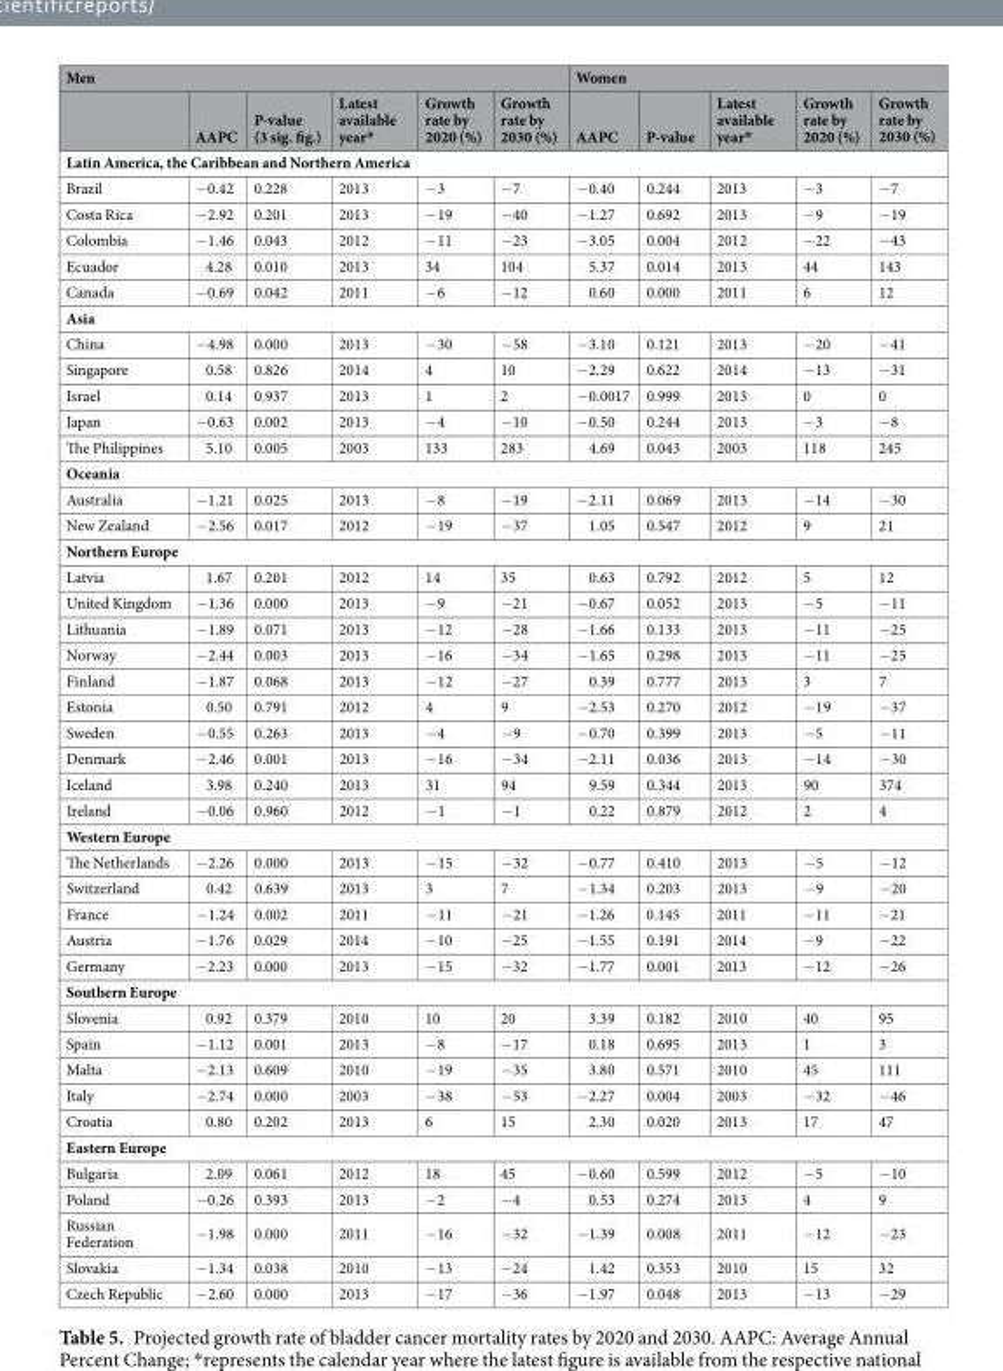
<table><thead><tr><td colspan="6">Men</td><td colspan="5">Women</td></tr><tr><td></td><td>AAPC</td><td>P-value (3 sig. fig.)</td><td>Latest available year*</td><td>Growth rate by 2020 (%)</td><td>Growth rate by 2030 (%)</td><td>AAPC</td><td>P-value</td><td>Latest available year*</td><td>Growth rate by 2020 (%)</td><td>Growth rate by 2030 (%)</td></tr></thead><tbody><tr><td colspan="11">Latin America, the Caribbean and Northern America</td></tr><tr><td>Brazil</td><td>−0.42</td><td>0.228</td><td>2013</td><td>−3</td><td>−7</td><td>−0.40</td><td>0.244</td><td>2013</td><td>−3</td><td>−7</td></tr><tr><td>Costa Rica</td><td>−2.92</td><td>0.201</td><td>2013</td><td>−19</td><td>−40</td><td>−1.27</td><td>0.692</td><td>2013</td><td>−9</td><td>−19</td></tr><tr><td>Colombia</td><td>−1.46</td><td>0.043</td><td>2012</td><td>−11</td><td>−23</td><td>−3.05</td><td>0.004</td><td>2012</td><td>−22</td><td>−43</td></tr><tr><td>Ecuador</td><td>4.28</td><td>0.010</td><td>2013</td><td>34</td><td>104</td><td>5.37</td><td>0.014</td><td>2013</td><td>44</td><td>143</td></tr><tr><td>Canada</td><td>−0.69</td><td>0.042</td><td>2011</td><td>−6</td><td>−12</td><td>0.60</td><td>0.000</td><td>2011</td><td>6</td><td>12</td></tr><tr><td colspan="11">Asia</td></tr><tr><td>China</td><td>−4.98</td><td>0.000</td><td>2013</td><td>−30</td><td>−58</td><td>−3.10</td><td>0.121</td><td>2013</td><td>−20</td><td>−41</td></tr><tr><td>Singapore</td><td>0.58</td><td>0.826</td><td>2014</td><td>4</td><td>10</td><td>−2.29</td><td>0.622</td><td>2014</td><td>−13</td><td>−31</td></tr><tr><td>Israel</td><td>0.14</td><td>0.937</td><td>2013</td><td>1</td><td>2</td><td>−0.0017</td><td>0.999</td><td>2013</td><td>0</td><td>0</td></tr><tr><td>Japan</td><td>−0.63</td><td>0.002</td><td>2013</td><td>−4</td><td>−10</td><td>−0.50</td><td>0.244</td><td>2013</td><td>−3</td><td>−8</td></tr><tr><td>The Philippines</td><td>5.10</td><td>0.005</td><td>2003</td><td>133</td><td>283</td><td>4.69</td><td>0.043</td><td>2003</td><td>118</td><td>245</td></tr><tr><td colspan="11">Oceania</td></tr><tr><td>Australia</td><td>−1.21</td><td>0.025</td><td>2013</td><td>−8</td><td>−19</td><td>−2.11</td><td>0.069</td><td>2013</td><td>−14</td><td>−30</td></tr><tr><td>New Zealand</td><td>−2.56</td><td>0.017</td><td>2012</td><td>−19</td><td>−37</td><td>1.05</td><td>0.547</td><td>2012</td><td>9</td><td>21</td></tr><tr><td colspan="11">Northern Europe</td></tr><tr><td>Latvia</td><td>1.67</td><td>0.201</td><td>2012</td><td>14</td><td>35</td><td>0.63</td><td>0.792</td><td>2012</td><td>5</td><td>12</td></tr><tr><td>United Kingdom</td><td>−1.36</td><td>0.000</td><td>2013</td><td>−9</td><td>−21</td><td>−0.67</td><td>0.052</td><td>2013</td><td>−5</td><td>−11</td></tr><tr><td>Lithuania</td><td>−1.89</td><td>0.071</td><td>2013</td><td>−12</td><td>−28</td><td>−1.66</td><td>0.133</td><td>2013</td><td>−11</td><td>−25</td></tr><tr><td>Norway</td><td>−2.44</td><td>0.003</td><td>2013</td><td>−16</td><td>−34</td><td>−1.65</td><td>0.298</td><td>2013</td><td>−11</td><td>−25</td></tr><tr><td>Finland</td><td>−1.87</td><td>0.068</td><td>2013</td><td>−12</td><td>−27</td><td>0.39</td><td>0.777</td><td>2013</td><td>3</td><td>7</td></tr><tr><td>Estonia</td><td>0.50</td><td>0.791</td><td>2012</td><td>4</td><td>9</td><td>−2.53</td><td>0.270</td><td>2012</td><td>−19</td><td>−37</td></tr><tr><td>Sweden</td><td>−0.55</td><td>0.263</td><td>2013</td><td>−4</td><td>−9</td><td>−0.70</td><td>0.399</td><td>2013</td><td>−5</td><td>−11</td></tr><tr><td>Denmark</td><td>−2.46</td><td>0.001</td><td>2013</td><td>−16</td><td>−34</td><td>−2.11</td><td>0.036</td><td>2013</td><td>−14</td><td>−30</td></tr><tr><td>Iceland</td><td>3.98</td><td>0.240</td><td>2013</td><td>31</td><td>94</td><td>9.59</td><td>0.344</td><td>2013</td><td>90</td><td>374</td></tr><tr><td>Ireland</td><td>−0.06</td><td>0.960</td><td>2012</td><td>−1</td><td>−1</td><td>0.22</td><td>0.879</td><td>2012</td><td>2</td><td>4</td></tr><tr><td colspan="11">Western Europe</td></tr><tr><td>The Netherlands</td><td>−2.26</td><td>0.000</td><td>2013</td><td>−15</td><td>−32</td><td>−0.77</td><td>0.410</td><td>2013</td><td>−5</td><td>−12</td></tr><tr><td>Switzerland</td><td>0.42</td><td>0.639</td><td>2013</td><td>3</td><td>7</td><td>−1.34</td><td>0.203</td><td>2013</td><td>−9</td><td>−20</td></tr><tr><td>France</td><td>−1.24</td><td>0.002</td><td>2011</td><td>−11</td><td>−21</td><td>−1.26</td><td>0.145</td><td>2011</td><td>−11</td><td>−21</td></tr><tr><td>Austria</td><td>−1.76</td><td>0.029</td><td>2014</td><td>−10</td><td>−25</td><td>−1.55</td><td>0.191</td><td>2014</td><td>−9</td><td>−22</td></tr><tr><td>Germany</td><td>−2.23</td><td>0.000</td><td>2013</td><td>−15</td><td>−32</td><td>−1.77</td><td>0.001</td><td>2013</td><td>−12</td><td>−26</td></tr><tr><td colspan="11">Southern Europe</td></tr><tr><td>Slovenia</td><td>0.92</td><td>0.379</td><td>2010</td><td>10</td><td>20</td><td>3.39</td><td>0.182</td><td>2010</td><td>40</td><td>95</td></tr><tr><td>Spain</td><td>−1.12</td><td>0.001</td><td>2013</td><td>−8</td><td>−17</td><td>0.18</td><td>0.695</td><td>2013</td><td>1</td><td>3</td></tr><tr><td>Malta</td><td>−2.13</td><td>0.609</td><td>2010</td><td>−19</td><td>−35</td><td>3.80</td><td>0.571</td><td>2010</td><td>45</td><td>111</td></tr><tr><td>Italy</td><td>−2.74</td><td>0.000</td><td>2003</td><td>−38</td><td>−53</td><td>−2.27</td><td>0.004</td><td>2003</td><td>−32</td><td>−46</td></tr><tr><td>Croatia</td><td>0.80</td><td>0.202</td><td>2013</td><td>6</td><td>15</td><td>2.30</td><td>0.020</td><td>2013</td><td>17</td><td>47</td></tr><tr><td colspan="11">Eastern Europe</td></tr><tr><td>Bulgaria</td><td>2.09</td><td>0.061</td><td>2012</td><td>18</td><td>45</td><td>−0.60</td><td>0.599</td><td>2012</td><td>−5</td><td>−10</td></tr><tr><td>Poland</td><td>−0.26</td><td>0.393</td><td>2013</td><td>−2</td><td>−4</td><td>0.53</td><td>0.274</td><td>2013</td><td>4</td><td>9</td></tr><tr><td>Russian Federation</td><td>−1.98</td><td>0.000</td><td>2011</td><td>−16</td><td>−32</td><td>−1.39</td><td>0.008</td><td>2011</td><td>−12</td><td>−23</td></tr><tr><td>Slovakia</td><td>−1.34</td><td>0.038</td><td>2010</td><td>−13</td><td>−24</td><td>1.42</td><td>0.353</td><td>2010</td><td>15</td><td>32</td></tr><tr><td>Czech Republic</td><td>−2.60</td><td>0.000</td><td>2013</td><td>−17</td><td>−36</td><td>−1.97</td><td>0.048</td><td>2013</td><td>−13</td><td>−29</td></tr></tbody></table>